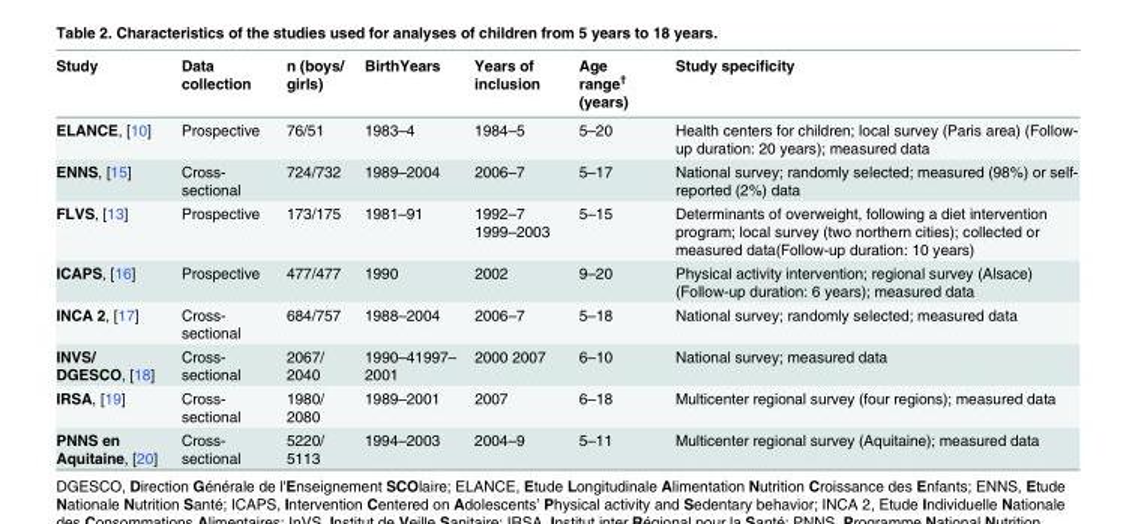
<table><thead><tr><td>Study</td><td>Data collection</td><td>n (boys/ girls)</td><td>BirthYears</td><td>Years of inclusion</td><td>Age range<sup>†</sup> (years)</td><td>Study specificity</td></tr></thead><tbody><tr><td>ELANCE, [10]</td><td>Prospective</td><td>76/51</td><td>1983–4</td><td>1984–5</td><td>5–20</td><td>Health centers for children; local survey (Paris area) (Follow- up duration: 20 years); measured data</td></tr><tr><td>ENNS, [15]</td><td>Cross- sectional</td><td>724/732</td><td>1989–2004</td><td>2006–7</td><td>5–17</td><td>National survey; randomly selected; measured (98%) or self- reported (2%) data</td></tr><tr><td>FLVS, [13]</td><td>Prospective</td><td>173/175</td><td>1981–91</td><td>1992–7 1999–2003</td><td>5–15</td><td>Determinants of overweight, following a diet intervention program; local survey (two northern cities); collected or measured data(Follow-up duration: 10 years)</td></tr><tr><td>ICAPS, [16]</td><td>Prospective</td><td>477/477</td><td>1990</td><td>2002</td><td>9–20</td><td>Physical activity intervention; regional survey (Alsace) (Follow-up duration: 6 years); measured data</td></tr><tr><td>INCA 2, [17]</td><td>Cross- sectional</td><td>684/757</td><td>1988–2004</td><td>2006–7</td><td>5–18</td><td>National survey; randomly selected; measured data</td></tr><tr><td>INVS/ DGESCO, [18]</td><td>Cross- sectional</td><td>2067/ 2040</td><td>1990–41997– 2001</td><td>2000 2007</td><td>6–10</td><td>National survey; measured data</td></tr><tr><td>IRSA, [19]</td><td>Cross- sectional</td><td>1980/ 2080</td><td>1989–2001</td><td>2007</td><td>6–18</td><td>Multicenter regional survey (four regions); measured data</td></tr><tr><td>PNNS en Aquitaine, [20]</td><td>Cross- sectional</td><td>5220/ 5113</td><td>1994–2003</td><td>2004–9</td><td>5–11</td><td>Multicenter regional survey (Aquitaine); measured data</td></tr></tbody></table>